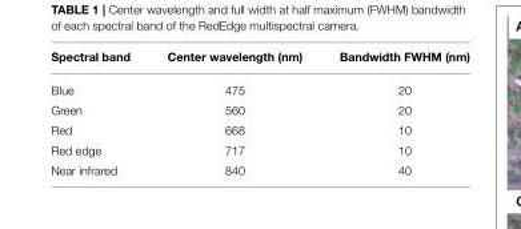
<table><thead><tr><td>Spectral band</td><td>Center wavelength (nm)</td><td>Bandwidth FWHM (nm)</td></tr></thead><tbody><tr><td>Blue</td><td>475</td><td>20</td></tr><tr><td>Green</td><td>560</td><td>20</td></tr><tr><td>Red</td><td>668</td><td>10</td></tr><tr><td>Red edge</td><td>717</td><td>10</td></tr><tr><td>Near infrared</td><td>840</td><td>40</td></tr></tbody></table>